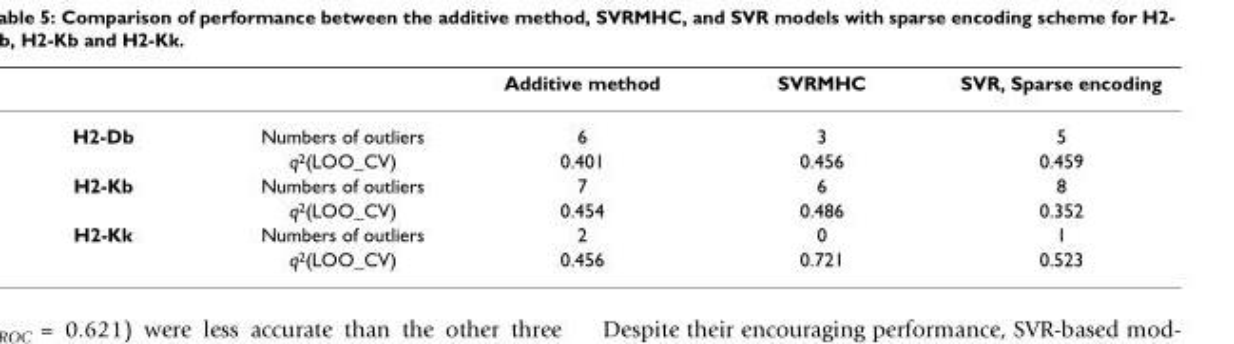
<table><thead><tr><td></td><td></td><td>Additive method</td><td>SVRMHC</td><td>SVR, Sparse encoding</td></tr></thead><tbody><tr><td rowspan="2">H2-Db</td><td>Numbers of outliers</td><td>6</td><td>3</td><td>5</td></tr><tr><td>q2(LOO_CV)</td><td>0.401</td><td>0.456</td><td>0.459</td></tr><tr><td rowspan="2">H2-Kb</td><td>Numbers of outliers</td><td>7</td><td>6</td><td>8</td></tr><tr><td>q2(LOO_CV)</td><td>0.454</td><td>0.486</td><td>0.352</td></tr><tr><td rowspan="2">H2-Kk</td><td>Numbers of outliers</td><td>2</td><td>0</td><td>1</td></tr><tr><td>q2(LOO_CV)</td><td>0.456</td><td>0.721</td><td>0.523</td></tr></tbody></table>